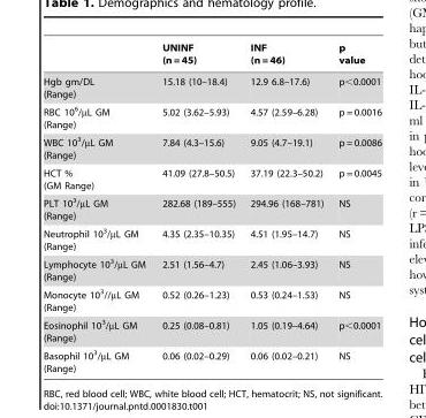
<table><thead><tr><td></td><td>UNINF (n = 45)</td><td>INF (n = 46)</td><td>p value</td></tr></thead><tbody><tr><td>Hgb gm/DL (Range)</td><td>15.18 (10–18.4)</td><td>12.9 6.8–17.6)</td><td>p&lt;0.0001</td></tr><tr><td>RBC 10<sup>6</sup>/µL GM (Range)</td><td>5.02 (3.62–5.93)</td><td>4.57 (2.59–6.28)</td><td>p = 0.0016</td></tr><tr><td>WBC 10<sup>3</sup>/µL GM (Range)</td><td>7.84 (4.3–15.6)</td><td>9.05 (4.7–19.1)</td><td>p = 0.0086</td></tr><tr><td>HCT % (GM Range)</td><td>41.09 (27.8–50.5)</td><td>37.19 (22.3–50.2)</td><td>p = 0.0045</td></tr><tr><td>PLT 10<sup>3</sup>/µL GM (Range)</td><td>282.68 (189–555)</td><td>294.96 (168–781)</td><td>NS</td></tr><tr><td>Neutrophil 10<sup>3</sup>/µL GM (Range)</td><td>4.35 (2.35–10.35)</td><td>4.51 (1.95–14.7)</td><td>NS</td></tr><tr><td>Lymphocyte 10<sup>3</sup>/µL GM (Range)</td><td>2.51 (1.56–4.7)</td><td>2.45 (1.06–3.93)</td><td>NS</td></tr><tr><td>Monocyte 10<sup>3</sup>//µL GM (Range)</td><td>0.52 (0.26–1.23)</td><td>0.53 (0.24–1.53)</td><td>NS</td></tr><tr><td>Eosinophil 10<sup>3</sup>/µL GM (Range)</td><td>0.25 (0.08–0.81)</td><td>1.05 (0.19–4.64)</td><td>p&lt;0.0001</td></tr><tr><td>Basophil 10<sup>3</sup>/µL GM (Range)</td><td>0.06 (0.02–0.29)</td><td>0.06 (0.02–0.21)</td><td>NS</td></tr></tbody></table>